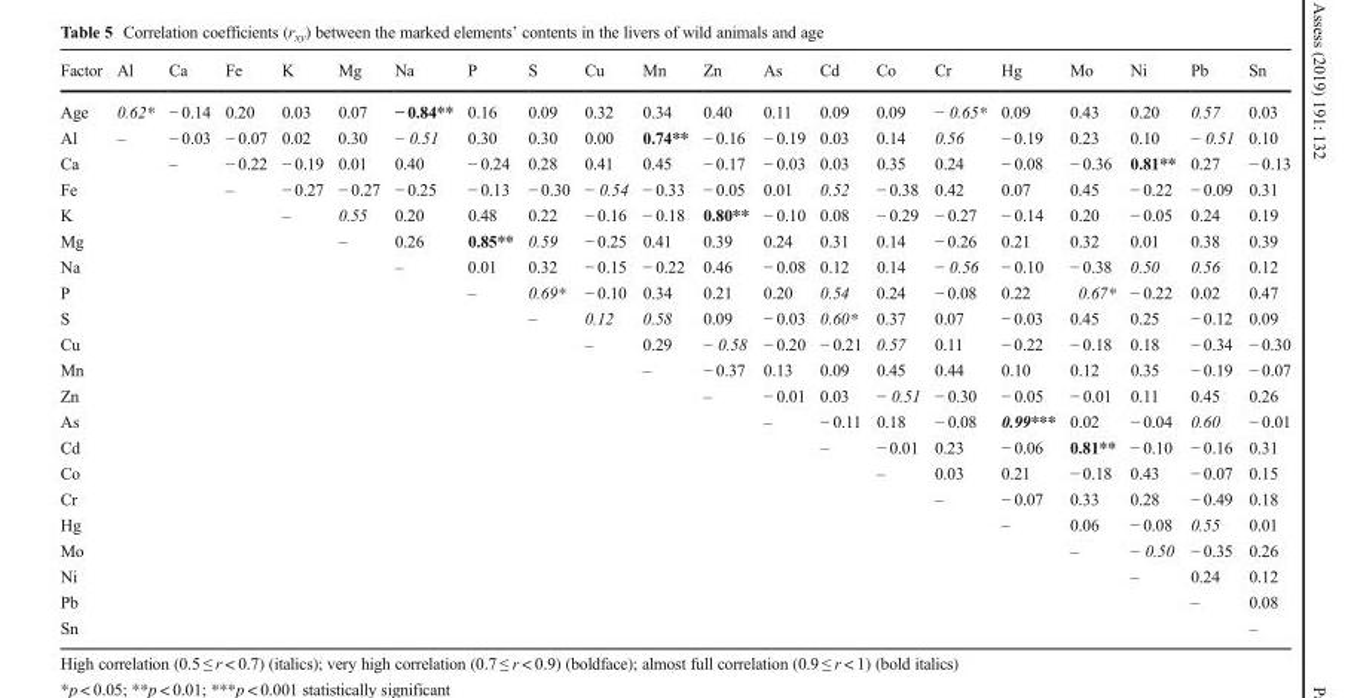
<table><thead><tr><td>Factor</td><td>Al</td><td>Ca</td><td>Fe</td><td>K</td><td>Mg</td><td>Na</td><td>P</td><td>S</td><td>Cu</td><td>Mn</td><td>Zn</td><td>As</td><td>Cd</td><td>Co</td><td>Cr</td><td>Hg</td><td>Mo</td><td>Ni</td><td>Pb</td><td>Sn</td></tr></thead><tbody><tr><td>Age</td><td>0.62*</td><td>− 0.14</td><td>0.20</td><td>0.03</td><td>0.07</td><td>− 0.84**</td><td>0.16</td><td>0.09</td><td>0.32</td><td>0.34</td><td>0.40</td><td>0.11</td><td>0.09</td><td>0.09</td><td>− 0.65*</td><td>0.09</td><td>0.43</td><td>0.20</td><td>0.57</td><td>0.03</td></tr><tr><td>Al</td><td>–</td><td>− 0.03</td><td>− 0.07</td><td>0.02</td><td>0.30</td><td>− 0.51</td><td>0.30</td><td>0.30</td><td>0.00</td><td>0.74**</td><td>− 0.16</td><td>− 0.19</td><td>0.03</td><td>0.14</td><td>0.56</td><td>− 0.19</td><td>0.23</td><td>0.10</td><td>− 0.51</td><td>0.10</td></tr><tr><td>Ca</td><td></td><td>–</td><td>− 0.22</td><td>− 0.19</td><td>0.01</td><td>0.40</td><td>− 0.24</td><td>0.28</td><td>0.41</td><td>0.45</td><td>− 0.17</td><td>− 0.03</td><td>0.03</td><td>0.35</td><td>0.24</td><td>− 0.08</td><td>− 0.36</td><td>0.81**</td><td>0.27</td><td>− 0.13</td></tr><tr><td>Fe</td><td></td><td></td><td>–</td><td>− 0.27</td><td>− 0.27</td><td>− 0.25</td><td>− 0.13</td><td>− 0.30</td><td>− 0.54</td><td>− 0.33</td><td>− 0.05</td><td>0.01</td><td>0.52</td><td>− 0.38</td><td>0.42</td><td>0.07</td><td>0.45</td><td>− 0.22</td><td>− 0.09</td><td>0.31</td></tr><tr><td>K</td><td></td><td></td><td></td><td>–</td><td>0.55</td><td>0.20</td><td>0.48</td><td>0.22</td><td>− 0.16</td><td>− 0.18</td><td>0.80**</td><td>− 0.10</td><td>0.08</td><td>− 0.29</td><td>− 0.27</td><td>− 0.14</td><td>0.20</td><td>− 0.05</td><td>0.24</td><td>0.19</td></tr><tr><td>Mg</td><td></td><td></td><td></td><td></td><td>–</td><td>0.26</td><td>0.85**</td><td>0.59</td><td>− 0.25</td><td>0.41</td><td>0.39</td><td>0.24</td><td>0.31</td><td>0.14</td><td>− 0.26</td><td>0.21</td><td>0.32</td><td>0.01</td><td>0.38</td><td>0.39</td></tr><tr><td>Na</td><td></td><td></td><td></td><td></td><td></td><td>–</td><td>0.01</td><td>0.32</td><td>− 0.15</td><td>− 0.22</td><td>0.46</td><td>− 0.08</td><td>0.12</td><td>0.14</td><td>− 0.56</td><td>− 0.10</td><td>− 0.38</td><td>0.50</td><td>0.56</td><td>0.12</td></tr><tr><td>P</td><td></td><td></td><td></td><td></td><td></td><td></td><td>–</td><td>0.69*</td><td>− 0.10</td><td>0.34</td><td>0.21</td><td>0.20</td><td>0.54</td><td>0.24</td><td>− 0.08</td><td>0.22</td><td>0.67*</td><td>− 0.22</td><td>0.02</td><td>0.47</td></tr><tr><td>S</td><td></td><td></td><td></td><td></td><td></td><td></td><td></td><td>–</td><td>0.12</td><td>0.58</td><td>0.09</td><td>− 0.03</td><td>0.60*</td><td>0.37</td><td>0.07</td><td>− 0.03</td><td>0.45</td><td>0.25</td><td>− 0.12</td><td>0.09</td></tr><tr><td>Cu</td><td></td><td></td><td></td><td></td><td></td><td></td><td></td><td></td><td>–</td><td>0.29</td><td>− 0.58</td><td>− 0.20</td><td>− 0.21</td><td>0.57</td><td>0.11</td><td>− 0.22</td><td>− 0.18</td><td>0.18</td><td>− 0.34</td><td>− 0.30</td></tr><tr><td>Mn</td><td></td><td></td><td></td><td></td><td></td><td></td><td></td><td></td><td></td><td>–</td><td>− 0.37</td><td>0.13</td><td>0.09</td><td>0.45</td><td>0.44</td><td>0.10</td><td>0.12</td><td>0.35</td><td>− 0.19</td><td>− 0.07</td></tr><tr><td>Zn</td><td></td><td></td><td></td><td></td><td></td><td></td><td></td><td></td><td></td><td></td><td>–</td><td>− 0.01</td><td>0.03</td><td>− 0.51</td><td>− 0.30</td><td>− 0.05</td><td>− 0.01</td><td>0.11</td><td>0.45</td><td>0.26</td></tr><tr><td>As</td><td></td><td></td><td></td><td></td><td></td><td></td><td></td><td></td><td></td><td></td><td></td><td>–</td><td>− 0.11</td><td>0.18</td><td>− 0.08</td><td>0.99***</td><td>0.02</td><td>− 0.04</td><td>0.60</td><td>− 0.01</td></tr><tr><td>Cd</td><td></td><td></td><td></td><td></td><td></td><td></td><td></td><td></td><td></td><td></td><td></td><td></td><td>–</td><td>− 0.01</td><td>0.23</td><td>− 0.06</td><td>0.81**</td><td>− 0.10</td><td>− 0.16</td><td>0.31</td></tr><tr><td>Co</td><td></td><td></td><td></td><td></td><td></td><td></td><td></td><td></td><td></td><td></td><td></td><td></td><td></td><td>–</td><td>0.03</td><td>0.21</td><td>− 0.18</td><td>0.43</td><td>− 0.07</td><td>0.15</td></tr><tr><td>Cr</td><td></td><td></td><td></td><td></td><td></td><td></td><td></td><td></td><td></td><td></td><td></td><td></td><td></td><td></td><td>–</td><td>− 0.07</td><td>0.33</td><td>0.28</td><td>− 0.49</td><td>0.18</td></tr><tr><td>Hg</td><td></td><td></td><td></td><td></td><td></td><td></td><td></td><td></td><td></td><td></td><td></td><td></td><td></td><td></td><td></td><td>–</td><td>0.06</td><td>− 0.08</td><td>0.55</td><td>0.01</td></tr><tr><td>Mo</td><td></td><td></td><td></td><td></td><td></td><td></td><td></td><td></td><td></td><td></td><td></td><td></td><td></td><td></td><td></td><td></td><td>–</td><td>− 0.50</td><td>− 0.35</td><td>0.26</td></tr><tr><td>Ni</td><td></td><td></td><td></td><td></td><td></td><td></td><td></td><td></td><td></td><td></td><td></td><td></td><td></td><td></td><td></td><td></td><td></td><td>–</td><td>0.24</td><td>0.12</td></tr><tr><td>Pb</td><td></td><td></td><td></td><td></td><td></td><td></td><td></td><td></td><td></td><td></td><td></td><td></td><td></td><td></td><td></td><td></td><td></td><td></td><td>–</td><td>0.08</td></tr><tr><td>Sn</td><td></td><td></td><td></td><td></td><td></td><td></td><td></td><td></td><td></td><td></td><td></td><td></td><td></td><td></td><td></td><td></td><td></td><td></td><td></td><td>–</td></tr></tbody></table>